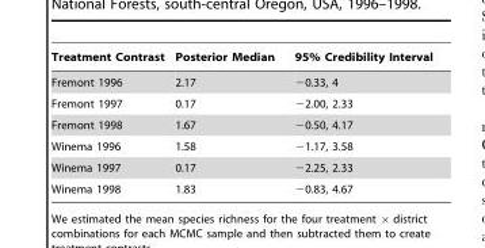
<table><thead><tr><td>Treatment Contrast</td><td>Posterior Median</td><td>95% Credibility Interval</td></tr></thead><tbody><tr><td>Fremont 1996</td><td>2.17</td><td>−0.33, 4</td></tr><tr><td>Fremont 1997</td><td>0.17</td><td>−2.00, 2.33</td></tr><tr><td>Fremont 1998</td><td>1.67</td><td>−0.50, 4.17</td></tr><tr><td>Winema 1996</td><td>1.58</td><td>−1.17, 3.58</td></tr><tr><td>Winema 1997</td><td>0.17</td><td>−2.25, 2.33</td></tr><tr><td>Winema 1998</td><td>1.83</td><td>−0.83, 4.67</td></tr></tbody></table>